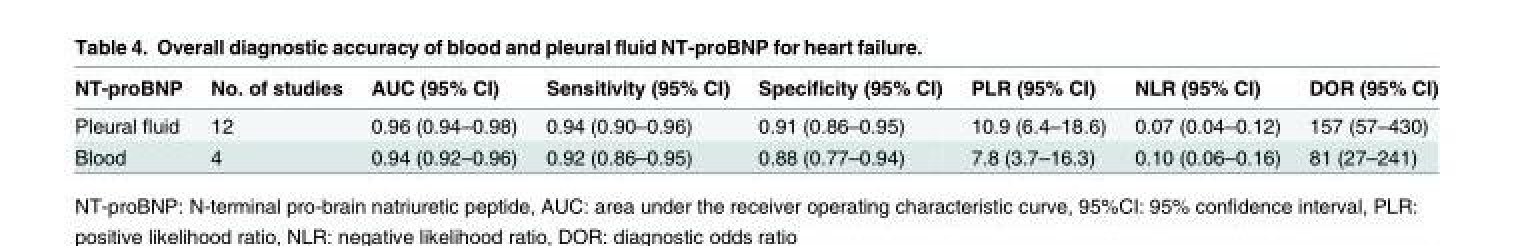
<table><thead><tr><td>NT-proBNP</td><td>No. of studies</td><td>AUC (95% CI)</td><td>Sensitivity (95% CI)</td><td>Specificity (95% CI)</td><td>PLR (95% CI)</td><td>NLR (95% CI)</td><td>DOR (95% CI)</td></tr></thead><tbody><tr><td>Pleural fluid</td><td>12</td><td>0.96 (0.94–0.98)</td><td>0.94 (0.90–0.96)</td><td>0.91 (0.86–0.95)</td><td>10.9 (6.4–18.6)</td><td>0.07 (0.04–0.12)</td><td>157 (57–430)</td></tr><tr><td>Blood</td><td>4</td><td>0.94 (0.92–0.96)</td><td>0.92 (0.86–0.95)</td><td>0.88 (0.77–0.94)</td><td>7.8 (3.7–16.3)</td><td>0.10 (0.06–0.16)</td><td>81 (27–241)</td></tr></tbody></table>